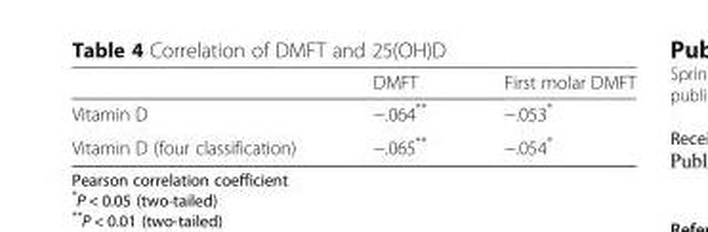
<table><thead><tr><td></td><td>DMFT</td><td>First molar DMFT</td></tr></thead><tbody><tr><td>Vitamin D</td><td>−.064**</td><td>−.053*</td></tr><tr><td>Vitamin D (four classification)</td><td>−.065**</td><td>−.054*</td></tr></tbody></table>